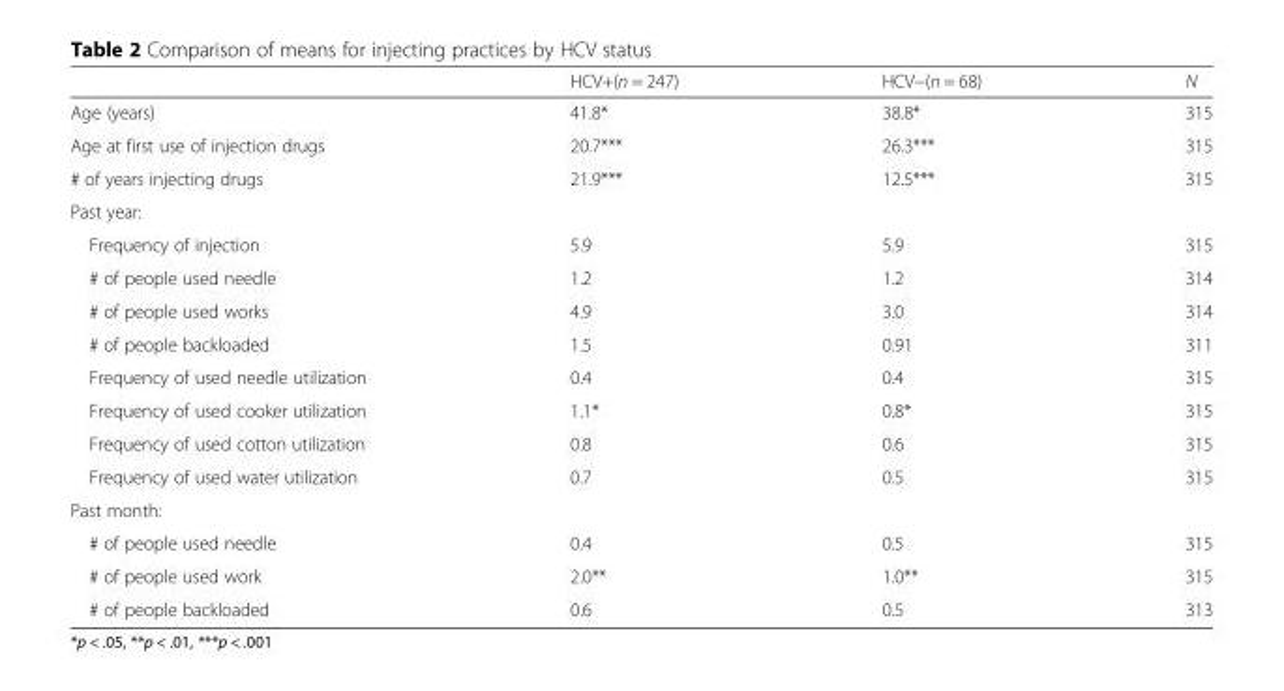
<table><thead><tr><td></td><td>HCV+(n = 247)</td><td>HCV−(n = 68)</td><td>N</td></tr></thead><tbody><tr><td>Age (years)</td><td>41.8*</td><td>38.8*</td><td>315</td></tr><tr><td>Age at first use of injection drugs</td><td>20.7***</td><td>26.3***</td><td>315</td></tr><tr><td># of years injecting drugs</td><td>21.9***</td><td>12.5***</td><td>315</td></tr><tr><td colspan="4">Past year:</td></tr><tr><td>Frequency of injection</td><td>5.9</td><td>5.9</td><td>315</td></tr><tr><td># of people used needle</td><td>1.2</td><td>1.2</td><td>314</td></tr><tr><td># of people used works</td><td>4.9</td><td>3.0</td><td>314</td></tr><tr><td># of people backloaded</td><td>1.5</td><td>0.91</td><td>311</td></tr><tr><td>Frequency of used needle utilization</td><td>0.4</td><td>0.4</td><td>315</td></tr><tr><td>Frequency of used cooker utilization</td><td>1.1*</td><td>0.8*</td><td>315</td></tr><tr><td>Frequency of used cotton utilization</td><td>0.8</td><td>0.6</td><td>315</td></tr><tr><td>Frequency of used water utilization</td><td>0.7</td><td>0.5</td><td>315</td></tr><tr><td colspan="4">Past month:</td></tr><tr><td># of people used needle</td><td>0.4</td><td>0.5</td><td>315</td></tr><tr><td># of people used work</td><td>2.0**</td><td>1.0**</td><td>315</td></tr><tr><td># of people backloaded</td><td>0.6</td><td>0.5</td><td>313</td></tr></tbody></table>